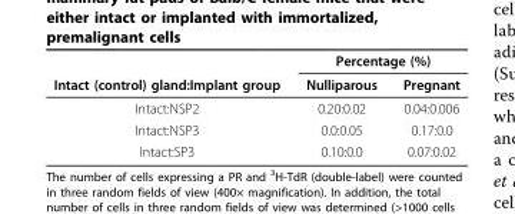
<table><thead><tr><td rowspan="2">Intact (control) gland:Implant group</td><td colspan="2">Percentage (%)</td></tr><tr><td>Nulliparous</td><td>Pregnant</td></tr></thead><tbody><tr><td>Intact:NSP2</td><td>0.20:0.02</td><td>0.04:0.006</td></tr><tr><td>Intact:NSP3</td><td>0.0:0.05</td><td>0.17:0.0</td></tr><tr><td>Intact:SP3</td><td>0.10:0.0</td><td>0.07:0.02</td></tr></tbody></table>